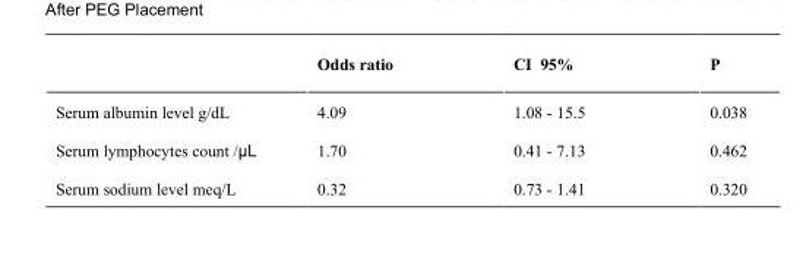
<table><thead><tr><td></td><td>Odds ratio</td><td>CI 95%</td><td>P</td></tr></thead><tbody><tr><td>Serum albumin level g/dL</td><td>4.09</td><td>1.08 - 15.5</td><td>0.038</td></tr><tr><td>Serum lymphocytes count /μL</td><td>1.70</td><td>0.41 - 7.13</td><td>0.462</td></tr><tr><td>Serum sodium level meq/L</td><td>0.32</td><td>0.73 - 1.41</td><td>0.320</td></tr></tbody></table>